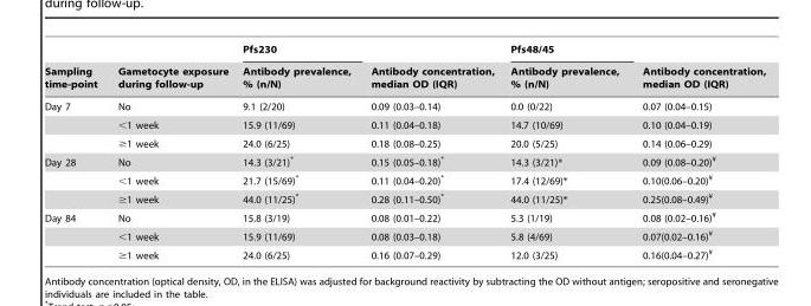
<table><thead><tr><td rowspan="2">Sampling time-point</td><td rowspan="2">Gametocyte exposure during follow-up</td><td rowspan="2">Pfs230 Antibody prevalence, % (n/N)</td><td rowspan="2">Antibody concentration, median OD (IQR)</td><td rowspan="2">Pfs48/45 Antibody prevalence, % (n/N)</td><td rowspan="2">Antibody concentration, median OD (IQR)</td></tr><tr></tr></thead><tbody><tr><td rowspan="3">Day 7</td><td>No</td><td>9.1 (2/20)</td><td>0.09 (0.03–0.14)</td><td>0.0 (0/22)</td><td>0.07 (0.04–0.15)</td></tr><tr><td>&lt;1 week</td><td>15.9 (11/69)</td><td>0.11 (0.04–0.18)</td><td>14.7 (10/69)</td><td>0.10 (0.04–0.19)</td></tr><tr><td>≥1 week</td><td>24.0 (6/25)</td><td>0.18 (0.08–0.25)</td><td>20.0 (5/25)</td><td>0.14 (0.06–0.29)</td></tr><tr><td rowspan="3">Day 28</td><td>No</td><td>14.3 (3/21)*</td><td>0.15 (0.05–0.18)*</td><td>14.3 (3/21)*</td><td>0.09 (0.08–0.20)¥</td></tr><tr><td>&lt;1 week</td><td>21.7 (15/69)*</td><td>0.11 (0.04–0.20)*</td><td>17.4 (12/69)*</td><td>0.10(0.06–0.20)¥</td></tr><tr><td>≥1 week</td><td>44.0 (11/25)*</td><td>0.28 (0.11–0.50)*</td><td>44.0 (11/25)*</td><td>0.25(0.08–0.49)¥</td></tr><tr><td rowspan="3">Day 84</td><td>No</td><td>15.8 (3/19)</td><td>0.08 (0.01–0.22)</td><td>5.3 (1/19)</td><td>0.08 (0.02–0.16)¥</td></tr><tr><td>&lt;1 week</td><td>15.9 (11/69)</td><td>0.08 (0.03–0.18)</td><td>5.8 (4/69)</td><td>0.07(0.02–0.16)¥</td></tr><tr><td>≥1 week</td><td>24.0 (6/25)</td><td>0.16 (0.07–0.29)</td><td>12.0 (3/25)</td><td>0.16(0.04–0.27)¥</td></tr></tbody></table>